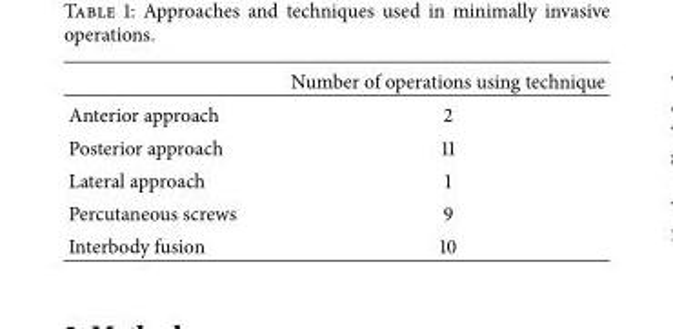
<table><thead><tr><td></td><td>Number of operations using technique</td></tr></thead><tbody><tr><td>Anterior approach</td><td>2</td></tr><tr><td>Posterior approach</td><td>11</td></tr><tr><td>Lateral approach</td><td>1</td></tr><tr><td>Percutaneous screws</td><td>9</td></tr><tr><td>Interbody fusion</td><td>10</td></tr></tbody></table>